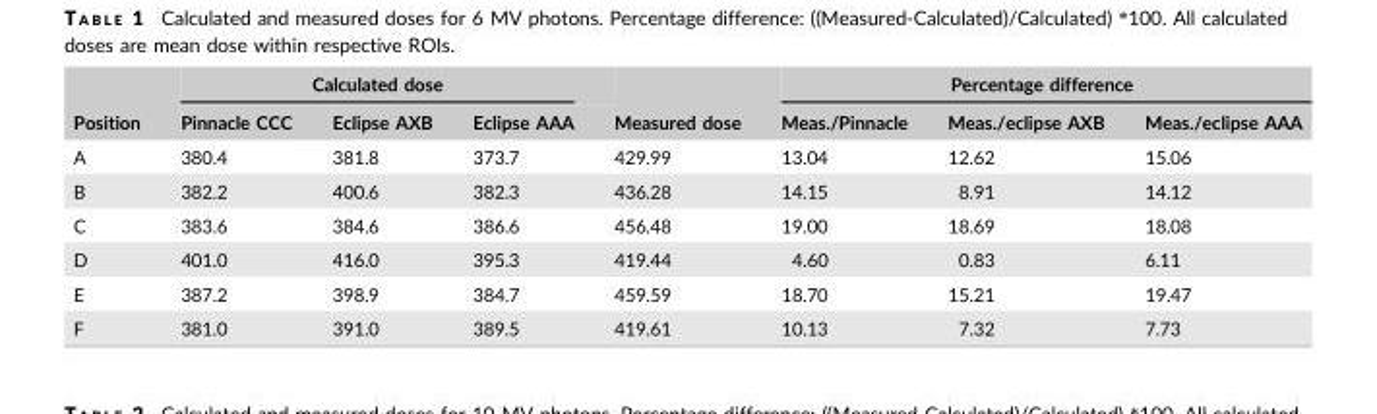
<table><thead><tr><td rowspan="2">Position</td><td colspan="3">Calculated dose</td><td rowspan="2">Measured dose</td><td colspan="3">Percentage difference</td></tr><tr><td>Pinnacle CCC</td><td>Eclipse AXB</td><td>Eclipse AAA</td><td>Meas./Pinnacle</td><td>Meas./eclipse AXB</td><td>Meas./eclipse AAA</td></tr></thead><tbody><tr><td>A</td><td>380.4</td><td>381.8</td><td>373.7</td><td>429.99</td><td>13.04</td><td>12.62</td><td>15.06</td></tr><tr><td>B</td><td>382.2</td><td>400.6</td><td>382.3</td><td>436.28</td><td>14.15</td><td>8.91</td><td>14.12</td></tr><tr><td>C</td><td>383.6</td><td>384.6</td><td>386.6</td><td>456.48</td><td>19.00</td><td>18.69</td><td>18.08</td></tr><tr><td>D</td><td>401.0</td><td>416.0</td><td>395.3</td><td>419.44</td><td>4.60</td><td>0.83</td><td>6.11</td></tr><tr><td>E</td><td>387.2</td><td>398.9</td><td>384.7</td><td>459.59</td><td>18.70</td><td>15.21</td><td>19.47</td></tr><tr><td>F</td><td>381.0</td><td>391.0</td><td>389.5</td><td>419.61</td><td>10.13</td><td>7.32</td><td>7.73</td></tr></tbody></table>